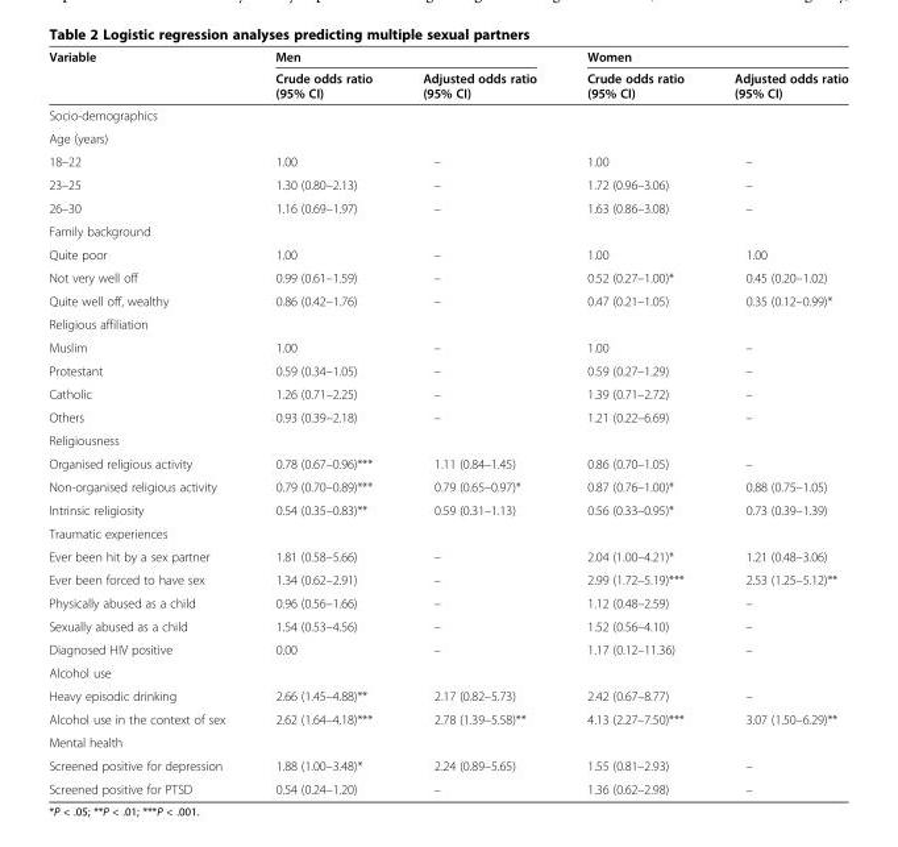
<table><thead><tr><td rowspan="2">Variable</td><td colspan="2">Men</td><td colspan="2">Women</td></tr><tr><td>Crude odds ratio (95% CI)</td><td>Adjusted odds ratio (95% CI)</td><td>Crude odds ratio (95% CI)</td><td>Adjusted odds ratio (95% CI)</td></tr></thead><tbody><tr><td colspan="5">Socio-demographics</td></tr><tr><td colspan="5">Age (years)</td></tr><tr><td>18–22</td><td>1.00</td><td>–</td><td>1.00</td><td>–</td></tr><tr><td>23–25</td><td>1.30 (0.80–2.13)</td><td>–</td><td>1.72 (0.96–3.06)</td><td>–</td></tr><tr><td>26–30</td><td>1.16 (0.69–1.97)</td><td>–</td><td>1.63 (0.86–3.08)</td><td>–</td></tr><tr><td colspan="5">Family background</td></tr><tr><td>Quite poor</td><td>1.00</td><td>–</td><td>1.00</td><td>1.00</td></tr><tr><td>Not very well off</td><td>0.99 (0.61–1.59)</td><td>–</td><td>0.52 (0.27–1.00)*</td><td>0.45 (0.20–1.02)</td></tr><tr><td>Quite well off, wealthy</td><td>0.86 (0.42–1.76)</td><td>–</td><td>0.47 (0.21–1.05)</td><td>0.35 (0.12–0.99)*</td></tr><tr><td colspan="5">Religious affiliation</td></tr><tr><td>Muslim</td><td>1.00</td><td>–</td><td>1.00</td><td>–</td></tr><tr><td>Protestant</td><td>0.59 (0.34–1.05)</td><td>–</td><td>0.59 (0.27–1.29)</td><td>–</td></tr><tr><td>Catholic</td><td>1.26 (0.71–2.25)</td><td>–</td><td>1.39 (0.71–2.72)</td><td>–</td></tr><tr><td>Others</td><td>0.93 (0.39–2.18)</td><td>–</td><td>1.21 (0.22–6.69)</td><td>–</td></tr><tr><td colspan="5">Religiousness</td></tr><tr><td>Organised religious activity</td><td>0.78 (0.67–0.96)***</td><td>1.11 (0.84–1.45)</td><td>0.86 (0.70–1.05)</td><td>–</td></tr><tr><td>Non-organised religious activity</td><td>0.79 (0.70–0.89)***</td><td>0.79 (0.65–0.97)*</td><td>0.87 (0.76–1.00)*</td><td>0.88 (0.75–1.05)</td></tr><tr><td>Intrinsic religiosity</td><td>0.54 (0.35–0.83)**</td><td>0.59 (0.31–1.13)</td><td>0.56 (0.33–0.95)*</td><td>0.73 (0.39–1.39)</td></tr><tr><td colspan="5">Traumatic experiences</td></tr><tr><td>Ever been hit by a sex partner</td><td>1.81 (0.58–5.66)</td><td>–</td><td>2.04 (1.00–4.21)*</td><td>1.21 (0.48–3.06)</td></tr><tr><td>Ever been forced to have sex</td><td>1.34 (0.62–2.91)</td><td>–</td><td>2.99 (1.72–5.19)***</td><td>2.53 (1.25–5.12)**</td></tr><tr><td>Physically abused as a child</td><td>0.96 (0.56–1.66)</td><td>–</td><td>1.12 (0.48–2.59)</td><td>–</td></tr><tr><td>Sexually abused as a child</td><td>1.54 (0.53–4.56)</td><td>–</td><td>1.52 (0.56–4.10)</td><td>–</td></tr><tr><td>Diagnosed HIV positive</td><td>0.00</td><td>–</td><td>1.17 (0.12–11.36)</td><td>–</td></tr><tr><td colspan="5">Alcohol use</td></tr><tr><td>Heavy episodic drinking</td><td>2.66 (1.45–4.88)**</td><td>2.17 (0.82–5.73)</td><td>2.42 (0.67–8.77)</td><td>–</td></tr><tr><td>Alcohol use in the context of sex</td><td>2.62 (1.64–4.18)***</td><td>2.78 (1.39–5.58)**</td><td>4.13 (2.27–7.50)***</td><td>3.07 (1.50–6.29)**</td></tr><tr><td colspan="5">Mental health</td></tr><tr><td>Screened positive for depression</td><td>1.88 (1.00–3.48)*</td><td>2.24 (0.89–5.65)</td><td>1.55 (0.81–2.93)</td><td>–</td></tr><tr><td>Screened positive for PTSD</td><td>0.54 (0.24–1.20)</td><td>–</td><td>1.36 (0.62–2.98)</td><td>–</td></tr></tbody></table>